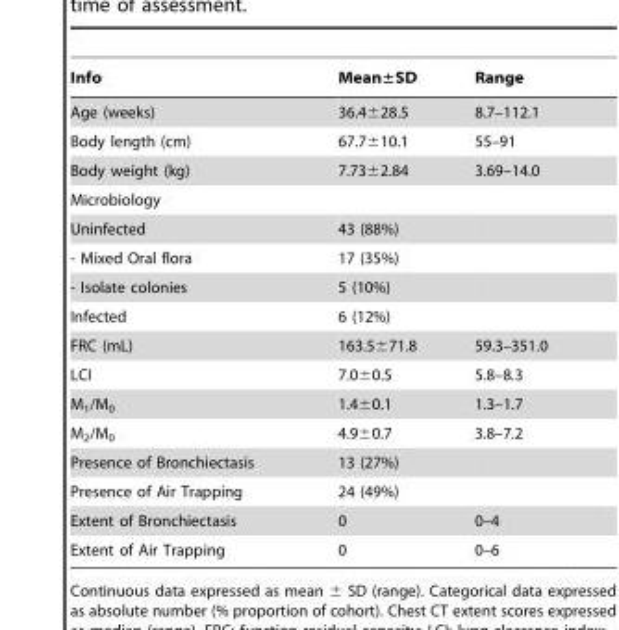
<table><thead><tr><td>Info</td><td>Mean±SD</td><td>Range</td></tr></thead><tbody><tr><td>Age (weeks)</td><td>36.4±28.5</td><td>8.7–112.1</td></tr><tr><td>Body length (cm)</td><td>67.7±10.1</td><td>55–91</td></tr><tr><td>Body weight (kg)</td><td>7.73±2.84</td><td>3.69–14.0</td></tr><tr><td colspan="3">Microbiology</td></tr><tr><td>Uninfected</td><td>43 (88%)</td><td></td></tr><tr><td>- Mixed Oral flora</td><td>17 (35%)</td><td></td></tr><tr><td>- Isolate colonies</td><td>5 (10%)</td><td></td></tr><tr><td>Infected</td><td>6 (12%)</td><td></td></tr><tr><td>FRC (mL)</td><td>163.5±71.8</td><td>59.3–351.0</td></tr><tr><td>LCI</td><td>7.0±0.5</td><td>5.8–8.3</td></tr><tr><td>M<sub>1</sub>/M<sub>0</sub></td><td>1.4±0.1</td><td>1.3–1.7</td></tr><tr><td>M<sub>2</sub>/M<sub>0</sub></td><td>4.9±0.7</td><td>3.8–7.2</td></tr><tr><td>Presence of Bronchiectasis</td><td>13 (27%)</td><td></td></tr><tr><td>Presence of Air Trapping</td><td>24 (49%)</td><td></td></tr><tr><td>Extent of Bronchiectasis</td><td>0</td><td>0–4</td></tr><tr><td>Extent of Air Trapping</td><td>0</td><td>0–6</td></tr></tbody></table>